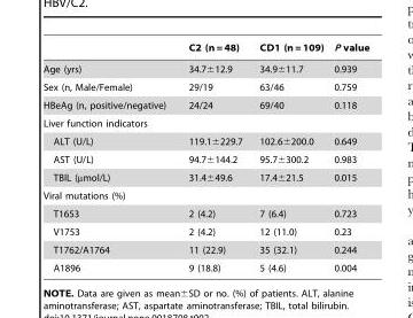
<table><thead><tr><td></td><td>C2 (n = 48)</td><td>CD1 (n = 109)</td><td>P value</td></tr></thead><tbody><tr><td>Age (yrs)</td><td>34.7±12.9</td><td>34.9±11.7</td><td>0.939</td></tr><tr><td>Sex (n, Male/Female)</td><td>29/19</td><td>63/46</td><td>0.759</td></tr><tr><td>HBeAg (n, positive/negative)</td><td>24/24</td><td>69/40</td><td>0.118</td></tr><tr><td colspan="4">Liver function indicators</td></tr><tr><td>ALT (U/L)</td><td>119.1±229.7</td><td>102.6±200.0</td><td>0.649</td></tr><tr><td>AST (U/L)</td><td>94.7±144.2</td><td>95.7±300.2</td><td>0.983</td></tr><tr><td>TBIL (µmol/L)</td><td>31.4±49.6</td><td>17.4±21.5</td><td>0.015</td></tr><tr><td colspan="4">Viral mutations (%)</td></tr><tr><td>T1653</td><td>2 (4.2)</td><td>7 (6.4)</td><td>0.723</td></tr><tr><td>V1753</td><td>2 (4.2)</td><td>12 (11.0)</td><td>0.23</td></tr><tr><td>T1762/A1764</td><td>11 (22.9)</td><td>35 (32.1)</td><td>0.244</td></tr><tr><td>A1896</td><td>9 (18.8)</td><td>5 (4.6)</td><td>0.004</td></tr></tbody></table>